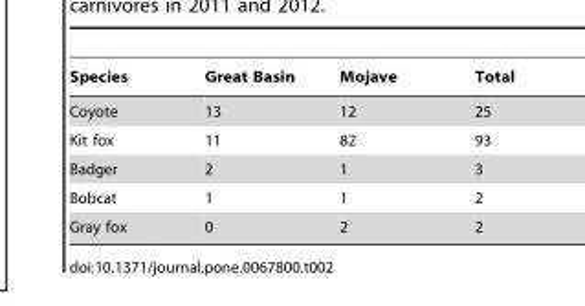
<table><thead><tr><td>Species</td><td>Great Basin</td><td>Mojave</td><td>Total</td></tr></thead><tbody><tr><td>Coyote</td><td>13</td><td>12</td><td>25</td></tr><tr><td>Kit fox</td><td>11</td><td>82</td><td>93</td></tr><tr><td>Badger</td><td>2</td><td>1</td><td>3</td></tr><tr><td>Bobcat</td><td>1</td><td>1</td><td>2</td></tr><tr><td>Gray fox</td><td>0</td><td>2</td><td>2</td></tr></tbody></table>